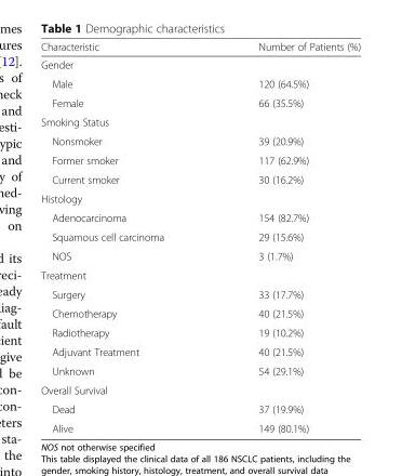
<table><thead><tr><td>Characteristic</td><td>Number of Patients (%)</td></tr></thead><tbody><tr><td colspan="2">Gender</td></tr><tr><td>Male</td><td>120 (64.5%)</td></tr><tr><td>Female</td><td>66 (35.5%)</td></tr><tr><td colspan="2">Smoking Status</td></tr><tr><td>Nonsmoker</td><td>39 (20.9%)</td></tr><tr><td>Former smoker</td><td>117 (62.9%)</td></tr><tr><td>Current smoker</td><td>30 (16.2%)</td></tr><tr><td colspan="2">Histology</td></tr><tr><td>Adenocarcinoma</td><td>154 (82.7%)</td></tr><tr><td>Squamous cell carcinoma</td><td>29 (15.6%)</td></tr><tr><td>NOS</td><td>3 (1.7%)</td></tr><tr><td colspan="2">Treatment</td></tr><tr><td>Surgery</td><td>33 (17.7%)</td></tr><tr><td>Chemotherapy</td><td>40 (21.5%)</td></tr><tr><td>Radiotherapy</td><td>19 (10.2%)</td></tr><tr><td>Adjuvant Treatment</td><td>40 (21.5%)</td></tr><tr><td>Unknown</td><td>54 (29.1%)</td></tr><tr><td colspan="2">Overall Survival</td></tr><tr><td>Dead</td><td>37 (19.9%)</td></tr><tr><td>Alive</td><td>149 (80.1%)</td></tr></tbody></table>